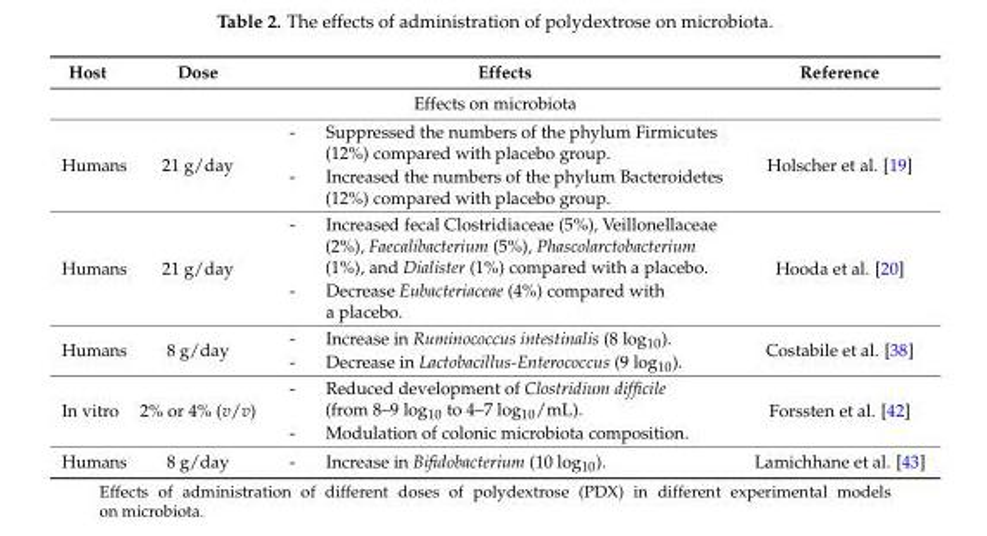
<table><thead><tr><td>Host</td><td>Dose</td><td>Effects</td><td>Reference</td></tr></thead><tbody><tr><td colspan="4">Effects on microbiota</td></tr><tr><td>Humans</td><td>21 g/day</td><td>- Suppressed the numbers of the phylum Firmicutes (12%) compared with placebo group. - Increased the numbers of the phylum Bacteroidetes (12%) compared with placebo group.</td><td>Holscher et al. [19]</td></tr><tr><td>Humans</td><td>21 g/day</td><td>- Increased fecal Clostridiaceae (5%), Veillonellaceae (2%), Faecalibacterium (5%), Phascolarctobacterium (1%), and Dialister (1%) compared with a placebo. - Decrease Eubacteriaceae (4%) compared with a placebo.</td><td>Hooda et al. [20]</td></tr><tr><td>Humans</td><td>8 g/day</td><td>- Increase in Ruminococcus intestinalis (8 log<sub>10</sub>). - Decrease in Lactobacillus-Enterococcus (9 log<sub>10</sub>).</td><td>Costabile et al. [38]</td></tr><tr><td>In vitro</td><td>2% or 4% (v/v)</td><td>- Reduced development of Clostridium difficile (from 8–9 log<sub>10</sub> to 4–7 log<sub>10</sub>/mL). - Modulation of colonic microbiota composition.</td><td>Forssten et al. [42]</td></tr><tr><td>Humans</td><td>8 g/day</td><td>- Increase in Bifidobacterium (10 log<sub>10</sub>).</td><td>Lamichhane et al. [43]</td></tr></tbody></table>